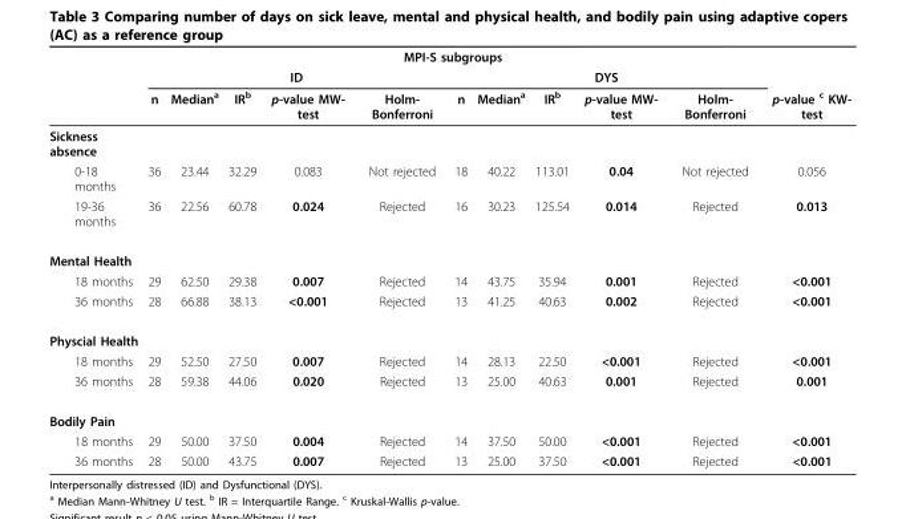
<table><thead><tr><td rowspan="3"></td><td colspan="10">MPI-S subgroups</td><td rowspan="3">p-value <sup>c</sup> KW- test</td></tr><tr><td colspan="5">ID</td><td colspan="5">DYS</td></tr><tr><td>n</td><td>Median<sup>a</sup></td><td>IR<sup>b</sup></td><td>p-value MW- test</td><td>Holm- Bonferroni</td><td>n</td><td>Median<sup>a</sup></td><td>IR<sup>b</sup></td><td>p-value MW- test</td><td>Holm- Bonferroni</td></tr></thead><tbody><tr><td colspan="12">Sickness absence</td></tr><tr><td>0-18 months</td><td>36</td><td>23.44</td><td>32.29</td><td>0.083</td><td>Not rejected</td><td>18</td><td>40.22</td><td>113.01</td><td>0.04</td><td>Not rejected</td><td>0.056</td></tr><tr><td>19-36 months</td><td>36</td><td>22.56</td><td>60.78</td><td>0.024</td><td>Rejected</td><td>16</td><td>30.23</td><td>125.54</td><td>0.014</td><td>Rejected</td><td>0.013</td></tr><tr><td colspan="12">Mental Health</td></tr><tr><td>18 months</td><td>29</td><td>62.50</td><td>29.38</td><td>0.007</td><td>Rejected</td><td>14</td><td>43.75</td><td>35.94</td><td>0.001</td><td>Rejected</td><td>&lt;0.001</td></tr><tr><td>36 months</td><td>28</td><td>66.88</td><td>38.13</td><td>&lt;0.001</td><td>Rejected</td><td>13</td><td>41.25</td><td>40.63</td><td>0.002</td><td>Rejected</td><td>&lt;0.001</td></tr><tr><td colspan="12">Physcial Health</td></tr><tr><td>18 months</td><td>29</td><td>52.50</td><td>27.50</td><td>0.007</td><td>Rejected</td><td>14</td><td>28.13</td><td>22.50</td><td>&lt;0.001</td><td>Rejected</td><td>&lt;0.001</td></tr><tr><td>36 months</td><td>28</td><td>59.38</td><td>44.06</td><td>0.020</td><td>Rejected</td><td>13</td><td>25.00</td><td>40.63</td><td>0.001</td><td>Rejected</td><td>0.001</td></tr><tr><td colspan="12">Bodily Pain</td></tr><tr><td>18 months</td><td>29</td><td>50.00</td><td>37.50</td><td>0.004</td><td>Rejected</td><td>14</td><td>37.50</td><td>50.00</td><td>&lt;0.001</td><td>Rejected</td><td>&lt;0.001</td></tr><tr><td>36 months</td><td>28</td><td>50.00</td><td>43.75</td><td>0.007</td><td>Rejected</td><td>13</td><td>25.00</td><td>37.50</td><td>&lt;0.001</td><td>Rejected</td><td>&lt;0.001</td></tr></tbody></table>